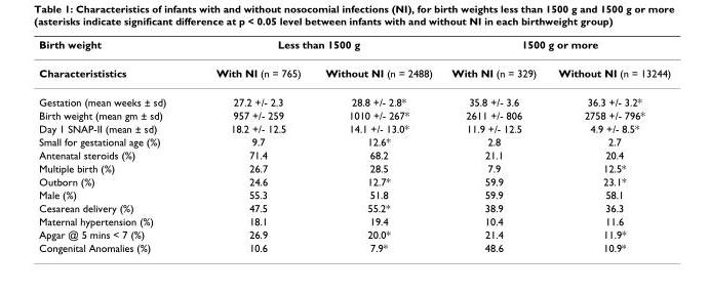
<table><thead><tr><td rowspan="2">Birth weight Characterististics</td><td colspan="2">Less than 1500 g</td><td colspan="2">1500 g or more</td></tr><tr><td>With NI (n = 765)</td><td>Without NI (n = 2488)</td><td>With NI (n = 329)</td><td>Without NI (n = 13244)</td></tr></thead><tbody><tr><td>Gestation (mean weeks ± sd)</td><td>27.2 +/- 2.3</td><td>28.8 +/- 2.8*</td><td>35.8 +/- 3.6</td><td>36.3 +/- 3.2*</td></tr><tr><td>Birth weight (mean gm ± sd)</td><td>957 +/- 259</td><td>1010 +/- 267*</td><td>2611 +/- 806</td><td>2758 +/- 796*</td></tr><tr><td>Day 1 SNAP-II (mean ± sd)</td><td>18.2 +/- 12.5</td><td>14.1 +/- 13.0*</td><td>11.9 +/- 12.5</td><td>4.9 +/- 8.5*</td></tr><tr><td>Small for gestational age (%)</td><td>9.7</td><td>12.6*</td><td>2.8</td><td>2.7</td></tr><tr><td>Antenatal steroids (%)</td><td>71.4</td><td>68.2</td><td>21.1</td><td>20.4</td></tr><tr><td>Multiple birth (%)</td><td>26.7</td><td>28.5</td><td>7.9</td><td>12.5*</td></tr><tr><td>Outborn (%)</td><td>24.6</td><td>12.7*</td><td>59.9</td><td>23.1*</td></tr><tr><td>Male (%)</td><td>55.3</td><td>51.8</td><td>59.9</td><td>58.1</td></tr><tr><td>Cesarean delivery (%)</td><td>47.5</td><td>55.2*</td><td>38.9</td><td>36.3</td></tr><tr><td>Maternal hypertension (%)</td><td>18.1</td><td>19.4</td><td>10.4</td><td>11.6</td></tr><tr><td>Apgar @ 5 mins &lt; 7 (%)</td><td>26.9</td><td>20.0*</td><td>21.4</td><td>11.9*</td></tr><tr><td>Congenital Anomalies (%)</td><td>10.6</td><td>7.9*</td><td>48.6</td><td>10.9*</td></tr></tbody></table>